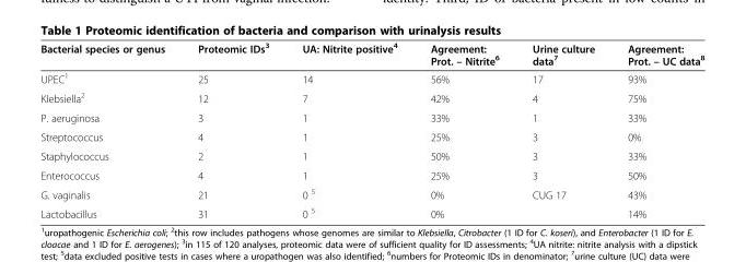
<table><thead><tr><td>Bacterial species or genus</td><td>Proteomic IDs<sup>3</sup></td><td>UA: Nitrite positive<sup>4</sup></td><td>Agreement: Prot. – Nitrite<sup>6</sup></td><td>Urine culture data<sup>7</sup></td><td>Agreement: Prot. – UC data<sup>8</sup></td></tr></thead><tbody><tr><td>UPEC<sup>1</sup></td><td>25</td><td>14</td><td>56%</td><td>17</td><td>93%</td></tr><tr><td>Klebsiella<sup>2</sup></td><td>12</td><td>7</td><td>42%</td><td>4</td><td>75%</td></tr><tr><td>P. aeruginosa</td><td>3</td><td>1</td><td>33%</td><td>1</td><td>33%</td></tr><tr><td>Streptococcus</td><td>4</td><td>1</td><td>25%</td><td>3</td><td>0%</td></tr><tr><td>Staphylococcus</td><td>2</td><td>1</td><td>50%</td><td>3</td><td>33%</td></tr><tr><td>Enterococcus</td><td>4</td><td>1</td><td>25%</td><td>3</td><td>50%</td></tr><tr><td>G. vaginalis</td><td>21</td><td>0 <sup>5</sup></td><td>0%</td><td rowspan="2">CUG 17</td><td>43%</td></tr><tr><td>Lactobacillus</td><td>31</td><td>0 <sup>5</sup></td><td>0%</td><td>14%</td></tr></tbody></table>